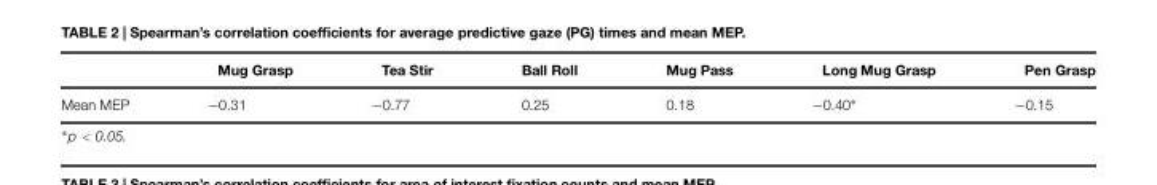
<table><thead><tr><td></td><td>Mug Grasp</td><td>Tea Stir</td><td>Ball Roll</td><td>Mug Pass</td><td>Long Mug Grasp</td><td>Pen Grasp</td></tr></thead><tbody><tr><td>Mean MEP</td><td>−0.31</td><td>−0.77</td><td>0.25</td><td>0.18</td><td>−0.40∗</td><td>−0.15</td></tr></tbody></table>